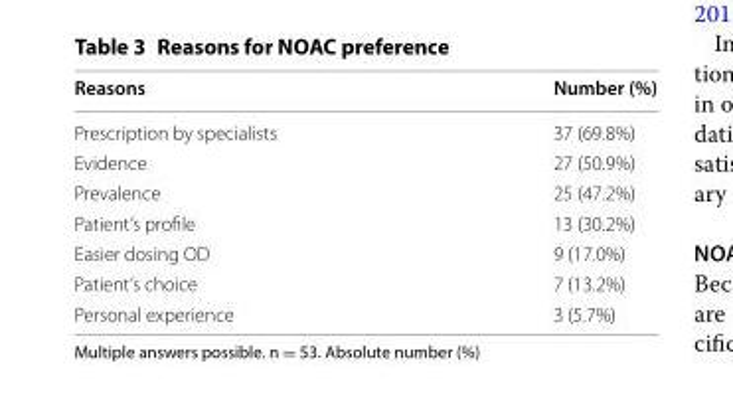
<table><thead><tr><td>Reasons</td><td>Number (%)</td></tr></thead><tbody><tr><td>Prescription by specialists</td><td>37 (69.8%)</td></tr><tr><td>Evidence</td><td>27 (50.9%)</td></tr><tr><td>Prevalence</td><td>25 (47.2%)</td></tr><tr><td>Patient’s profile</td><td>13 (30.2%)</td></tr><tr><td>Easier dosing OD</td><td>9 (17.0%)</td></tr><tr><td>Patient’s choice</td><td>7 (13.2%)</td></tr><tr><td>Personal experience</td><td>3 (5.7%)</td></tr></tbody></table>